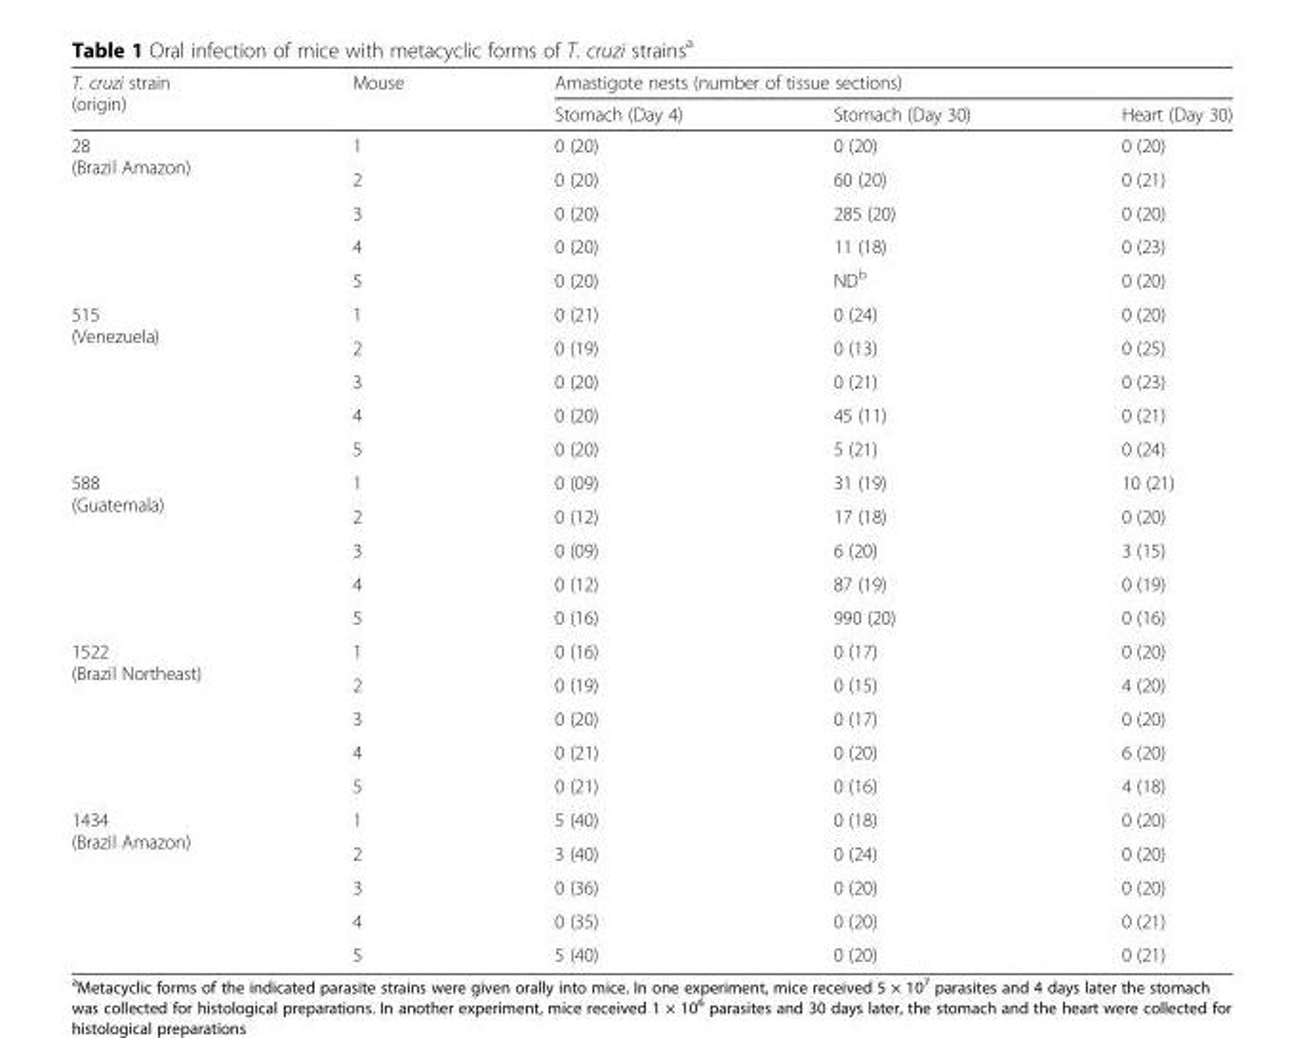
<table><thead><tr><td rowspan="2">T. cruzi strain (origin)</td><td rowspan="2">Mouse</td><td colspan="3">Amastigote nests (number of tissue sections)</td></tr><tr><td>Stomach (Day 4)</td><td>Stomach (Day 30)</td><td>Heart (Day 30)</td></tr></thead><tbody><tr><td rowspan="5">28 (Brazil Amazon)</td><td>1</td><td>0 (20)</td><td>0 (20)</td><td>0 (20)</td></tr><tr><td>2</td><td>0 (20)</td><td>60 (20)</td><td>0 (21)</td></tr><tr><td>3</td><td>0 (20)</td><td>285 (20)</td><td>0 (20)</td></tr><tr><td>4</td><td>0 (20)</td><td>11 (18)</td><td>0 (23)</td></tr><tr><td>5</td><td>0 (20)</td><td>ND<sup>b</sup></td><td>0 (20)</td></tr><tr><td rowspan="5">515 (Venezuela)</td><td>1</td><td>0 (21)</td><td>0 (24)</td><td>0 (20)</td></tr><tr><td>2</td><td>0 (19)</td><td>0 (13)</td><td>0 (25)</td></tr><tr><td>3</td><td>0 (20)</td><td>0 (21)</td><td>0 (23)</td></tr><tr><td>4</td><td>0 (20)</td><td>45 (11)</td><td>0 (21)</td></tr><tr><td>5</td><td>0 (20)</td><td>5 (21)</td><td>0 (24)</td></tr><tr><td rowspan="5">588 (Guatemala)</td><td>1</td><td>0 (09)</td><td>31 (19)</td><td>10 (21)</td></tr><tr><td>2</td><td>0 (12)</td><td>17 (18)</td><td>0 (20)</td></tr><tr><td>3</td><td>0 (09)</td><td>6 (20)</td><td>3 (15)</td></tr><tr><td>4</td><td>0 (12)</td><td>87 (19)</td><td>0 (19)</td></tr><tr><td>5</td><td>0 (16)</td><td>990 (20)</td><td>0 (16)</td></tr><tr><td rowspan="5">1522 (Brazil Northeast)</td><td>1</td><td>0 (16)</td><td>0 (17)</td><td>0 (20)</td></tr><tr><td>2</td><td>0 (19)</td><td>0 (15)</td><td>4 (20)</td></tr><tr><td>3</td><td>0 (20)</td><td>0 (17)</td><td>0 (20)</td></tr><tr><td>4</td><td>0 (21)</td><td>0 (20)</td><td>6 (20)</td></tr><tr><td>5</td><td>0 (21)</td><td>0 (16)</td><td>4 (18)</td></tr><tr><td rowspan="5">1434 (Brazil Amazon)</td><td>1</td><td>5 (40)</td><td>0 (18)</td><td>0 (20)</td></tr><tr><td>2</td><td>3 (40)</td><td>0 (24)</td><td>0 (20)</td></tr><tr><td>3</td><td>0 (36)</td><td>0 (20)</td><td>0 (20)</td></tr><tr><td>4</td><td>0 (35)</td><td>0 (20)</td><td>0 (21)</td></tr><tr><td>5</td><td>5 (40)</td><td>0 (20)</td><td>0 (21)</td></tr></tbody></table>